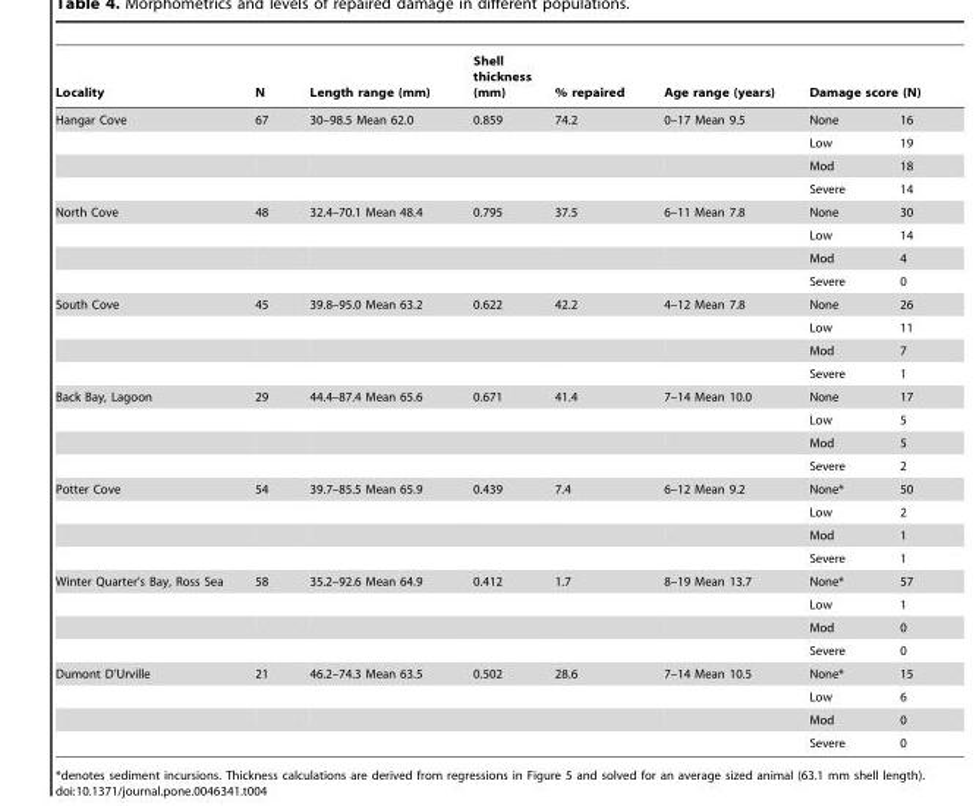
<table><thead><tr><td rowspan="2">Locality Hangar Cove</td><td rowspan="2">N 67</td><td rowspan="2">Length range (mm) 30–98.5 Mean 62.0</td><td rowspan="2">Shell thickness (mm) 0.859</td><td rowspan="2">% repaired 74.2</td><td rowspan="2">Age range (years) 0–17 Mean 9.5</td><td colspan="2">Damage score (N)</td></tr><tr><td>None</td><td>16</td></tr></thead><tbody><tr><td></td><td></td><td></td><td></td><td></td><td></td><td>Low</td><td>19</td></tr><tr><td></td><td></td><td></td><td></td><td></td><td></td><td>Mod</td><td>18</td></tr><tr><td></td><td></td><td></td><td></td><td></td><td></td><td>Severe</td><td>14</td></tr><tr><td rowspan="4">North Cove</td><td>48</td><td>32.4–70.1 Mean 48.4</td><td>0.795</td><td>37.5</td><td>6–11 Mean 7.8</td><td>None</td><td>30</td></tr><tr><td></td><td></td><td></td><td></td><td></td><td>Low</td><td>14</td></tr><tr><td></td><td></td><td></td><td></td><td></td><td>Mod</td><td>4</td></tr><tr><td></td><td></td><td></td><td></td><td></td><td>Severe</td><td>0</td></tr><tr><td rowspan="4">South Cove</td><td>45</td><td>39.8–95.0 Mean 63.2</td><td>0.622</td><td>42.2</td><td>4–12 Mean 7.8</td><td>None</td><td>26</td></tr><tr><td></td><td></td><td></td><td></td><td></td><td>Low</td><td>11</td></tr><tr><td></td><td></td><td></td><td></td><td></td><td>Mod</td><td>7</td></tr><tr><td></td><td></td><td></td><td></td><td></td><td>Severe</td><td>1</td></tr><tr><td rowspan="4">Back Bay, Lagoon</td><td>29</td><td>44.4–87.4 Mean 65.6</td><td>0.671</td><td>41.4</td><td>7–14 Mean 10.0</td><td>None</td><td>17</td></tr><tr><td></td><td></td><td></td><td></td><td></td><td>Low</td><td>5</td></tr><tr><td></td><td></td><td></td><td></td><td></td><td>Mod</td><td>5</td></tr><tr><td></td><td></td><td></td><td></td><td></td><td>Severe</td><td>2</td></tr><tr><td rowspan="4">Potter Cove</td><td>54</td><td>39.7–85.5 Mean 65.9</td><td>0.439</td><td>7.4</td><td>6–12 Mean 9.2</td><td>None*</td><td>50</td></tr><tr><td></td><td></td><td></td><td></td><td></td><td>Low</td><td>2</td></tr><tr><td></td><td></td><td></td><td></td><td></td><td>Mod</td><td>1</td></tr><tr><td></td><td></td><td></td><td></td><td></td><td>Severe</td><td>1</td></tr><tr><td rowspan="4">Winter Quarter’s Bay, Ross Sea</td><td>58</td><td>35.2–92.6 Mean 64.9</td><td>0.412</td><td>1.7</td><td>8–19 Mean 13.7</td><td>None*</td><td>57</td></tr><tr><td></td><td></td><td></td><td></td><td></td><td>Low</td><td>1</td></tr><tr><td></td><td></td><td></td><td></td><td></td><td>Mod</td><td>0</td></tr><tr><td></td><td></td><td></td><td></td><td></td><td>Severe</td><td>0</td></tr><tr><td rowspan="4">Dumont D’Urville</td><td>21</td><td>46.2–74.3 Mean 63.5</td><td>0.502</td><td>28.6</td><td>7–14 Mean 10.5</td><td>None*</td><td>15</td></tr><tr><td></td><td></td><td></td><td></td><td></td><td>Low</td><td>6</td></tr><tr><td></td><td></td><td></td><td></td><td></td><td>Mod</td><td>0</td></tr><tr><td></td><td></td><td></td><td></td><td></td><td>Severe</td><td>0</td></tr></tbody></table>